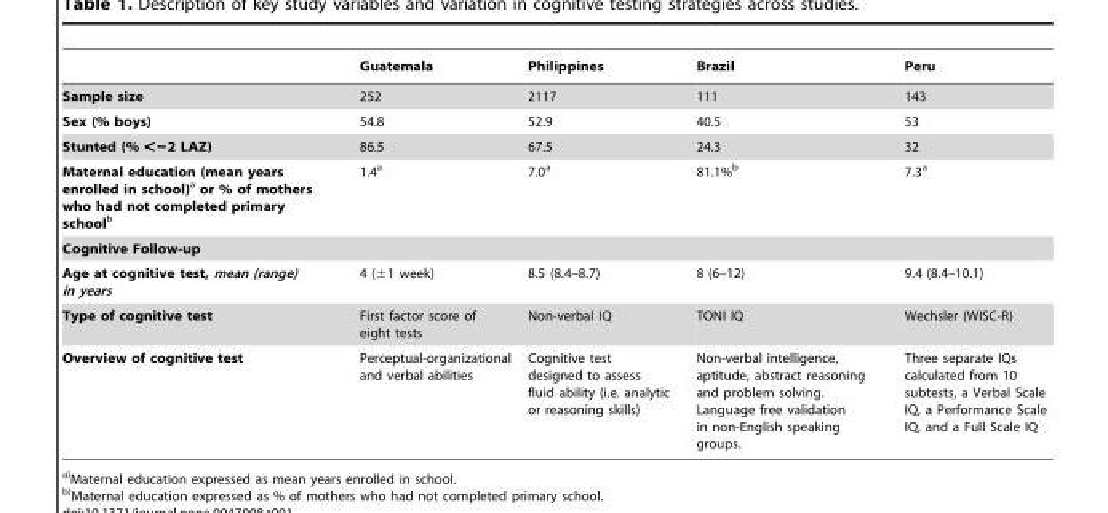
<table><thead><tr><td></td><td>Guatemala</td><td>Philippines</td><td>Brazil</td><td>Peru</td></tr></thead><tbody><tr><td>Sample size</td><td>252</td><td>2117</td><td>111</td><td>143</td></tr><tr><td>Sex (% boys)</td><td>54.8</td><td>52.9</td><td>40.5</td><td>53</td></tr><tr><td>Stunted (% &lt;−2 LAZ)</td><td>86.5</td><td>67.5</td><td>24.3</td><td>32</td></tr><tr><td>Maternal education (mean years enrolled in school)a or % of mothers who had not completed primary schoolb</td><td>1.4<sup>a</sup></td><td>7.0<sup>a</sup></td><td>81.1%<sup>b</sup></td><td>7.3<sup>a</sup></td></tr><tr><td colspan="5">Cognitive Follow-up</td></tr><tr><td>Age at cognitive test, mean (range) in years</td><td>4 (±1 week)</td><td>8.5 (8.4–8.7)</td><td>8 (6–12)</td><td>9.4 (8.4–10.1)</td></tr><tr><td>Type of cognitive test</td><td>First factor score of eight tests</td><td>Non-verbal IQ</td><td>TONI IQ</td><td>Wechsler (WISC-R)</td></tr><tr><td>Overview of cognitive test</td><td>Perceptual-organizational and verbal abilities</td><td>Cognitive test designed to assess fluid ability (i.e. analytic or reasoning skills)</td><td>Non-verbal intelligence, aptitude, abstract reasoning and problem solving. Language free validation in non-English speaking groups.</td><td>Three separate IQs calculated from 10 subtests, a Verbal Scale IQ, a Performance Scale IQ, and a Full Scale IQ</td></tr></tbody></table>